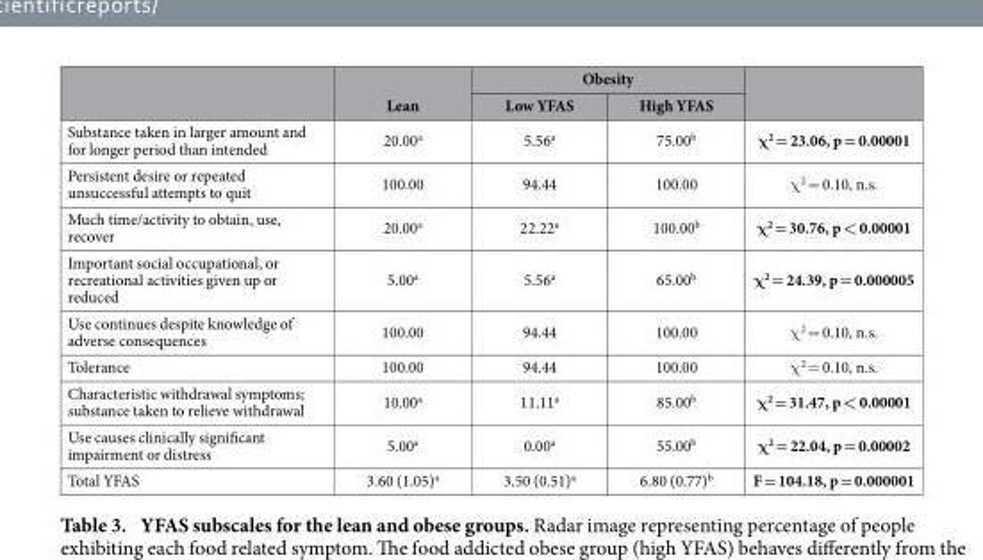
<table><thead><tr><td rowspan="2"></td><td rowspan="2">Lean</td><td colspan="2">Obesity</td><td rowspan="2"></td></tr><tr><td>Low YFAS</td><td>High YFAS</td></tr></thead><tbody><tr><td>Substance taken in larger amount and for longer period than intended</td><td>20.00<sup>a</sup></td><td>5.56<sup>a</sup></td><td>75.00<sup>b</sup></td><td>χ<sup>2</sup> = 23.06, p = 0.00001</td></tr><tr><td>Persistent desire or repeated unsuccessful attempts to quit</td><td>100.00</td><td>94.44</td><td>100.00</td><td>χ <sup>2</sup> = 0.10, n.s.</td></tr><tr><td>Much time/activity to obtain, use, recover</td><td>20.00<sup>a</sup></td><td>22.22<sup>a</sup></td><td>100.00<sup>b</sup></td><td>χ<sup>2</sup> = 30.76, p &lt; 0.00001</td></tr><tr><td>Important social occupational, or recreational activities given up or reduced</td><td>5.00<sup>a</sup></td><td>5.56<sup>a</sup></td><td>65.00<sup>b</sup></td><td>χ<sup>2</sup> = 24.39, p = 0.000005</td></tr><tr><td>Use continues despite knowledge of adverse consequences</td><td>100.00</td><td>94.44</td><td>100.00</td><td>χ <sup>2</sup> = 0.10, n.s.</td></tr><tr><td>Tolerance</td><td>100.00</td><td>94.44</td><td>100.00</td><td>χ <sup>2</sup> = 0.10, n.s.</td></tr><tr><td>Characteristic withdrawal symptoms; substance taken to relieve withdrawal</td><td>10.00<sup>a</sup></td><td>11.11<sup>a</sup></td><td>85.00<sup>b</sup></td><td>χ<sup>2</sup> = 31.47, p &lt; 0.00001</td></tr><tr><td>Use causes clinically significant impairment or distress</td><td>5.00<sup>a</sup></td><td>0.00<sup>a</sup></td><td>55.00<sup>b</sup></td><td>χ<sup>2</sup> = 22.04, p = 0.00002</td></tr><tr><td>Total YFAS</td><td>3.60 (1.05)<sup>a</sup></td><td>3.50 (0.51)<sup>a</sup></td><td>6.80 (0.77)<sup>b</sup></td><td>F = 104.18, p = 0.000001</td></tr></tbody></table>